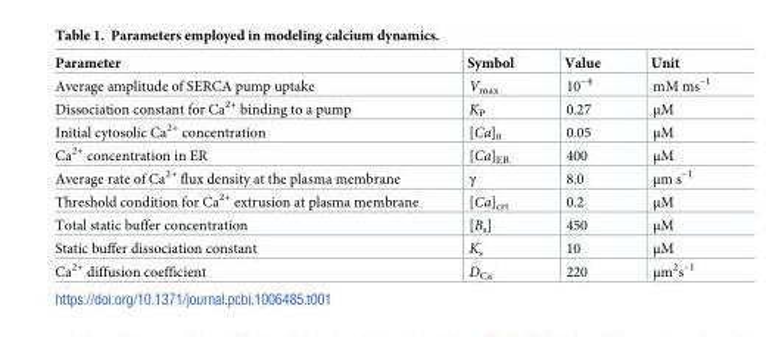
<table><thead><tr><td>Parameter</td><td>Symbol</td><td>Value</td><td>Unit</td></tr></thead><tbody><tr><td>Average amplitude of SERCA pump uptake</td><td>V<sub>max</sub></td><td>10<sup>−4</sup></td><td>mM ms<sup>–1</sup></td></tr><tr><td>Dissociation constant for Ca<sup>2+</sup> binding to a pump</td><td>K<sub>P</sub></td><td>0.27</td><td>μM</td></tr><tr><td>Initial cytosolic Ca<sup>2+</sup> concentration</td><td>[Ca]<sub>0</sub></td><td>0.05</td><td>μM</td></tr><tr><td>Ca<sup>2+</sup> concentration in ER</td><td>[Ca]<sub>ER</sub></td><td>400</td><td>μM</td></tr><tr><td>Average rate of Ca<sup>2+</sup> flux density at the plasma membrane</td><td>γ</td><td>8.0</td><td>μm s<sup>–1</sup></td></tr><tr><td>Threshold condition for Ca<sup>2+</sup> extrusion at plasma membrane</td><td>[Ca]<sub>crt</sub></td><td>0.2</td><td>μM</td></tr><tr><td>Total static buffer concentration</td><td>[B<sub>s</sub>]</td><td>450</td><td>μM</td></tr><tr><td>Static buffer dissociation constant</td><td>K<sub>s</sub></td><td>10</td><td>μM</td></tr><tr><td>Ca<sup>2+</sup> diffusion coefficient</td><td>D<sub>Ca</sub></td><td>220</td><td>μm<sup>2</sup>s<sup>–1</sup></td></tr></tbody></table>